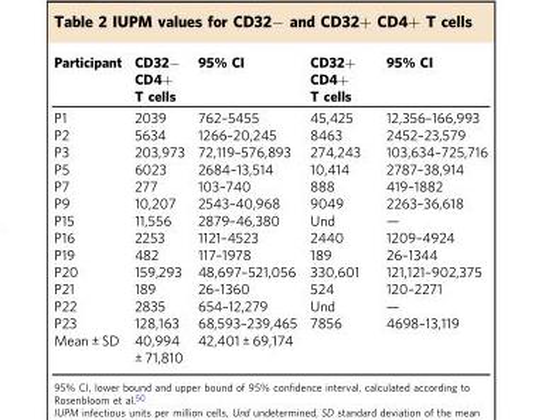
<table><thead><tr><td>Participant</td><td>CD32− CD4+ T cells</td><td>95% CI</td><td>CD32+ CD4+ T cells</td><td>95% CI</td></tr></thead><tbody><tr><td>P1</td><td>2039</td><td>762–5455</td><td>45,425</td><td>12,356–166,993</td></tr><tr><td>P2</td><td>5634</td><td>1266–20,245</td><td>8463</td><td>2452–23,579</td></tr><tr><td>P3</td><td>203,973</td><td>72,119–576,893</td><td>274,243</td><td>103,634–725,716</td></tr><tr><td>P5</td><td>6023</td><td>2684–13,514</td><td>10,414</td><td>2787–38,914</td></tr><tr><td>P7</td><td>277</td><td>103–740</td><td>888</td><td>419–1882</td></tr><tr><td>P9</td><td>10,207</td><td>2543–40,968</td><td>9049</td><td>2263–36,618</td></tr><tr><td>P15</td><td>11,556</td><td>2879–46,380</td><td>Und</td><td>—</td></tr><tr><td>P16</td><td>2253</td><td>1121–4523</td><td>2440</td><td>1209–4924</td></tr><tr><td>P19</td><td>482</td><td>117–1978</td><td>189</td><td>26–1344</td></tr><tr><td>P20</td><td>159,293</td><td>48,697–521,056</td><td>330,601</td><td>121,121–902,375</td></tr><tr><td>P21</td><td>189</td><td>26–1360</td><td>524</td><td>120–2271</td></tr><tr><td>P22</td><td>2835</td><td>654–12,279</td><td>Und</td><td>—</td></tr><tr><td>P23</td><td>128,163</td><td>68,593–239,465</td><td>7856</td><td>4698–13,119</td></tr><tr><td>Mean ± SD</td><td>40,994 ± 71,810</td><td colspan="3">42,401 ± 69,174</td></tr></tbody></table>